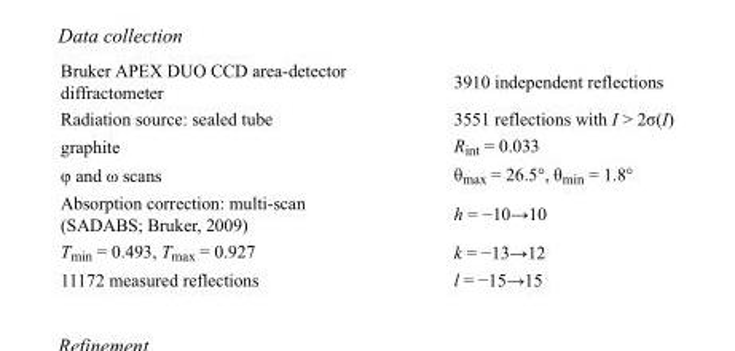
<table><tbody><tr><td>Bruker APEX DUO CCD area-detector diffractometer</td><td>3910 independent reflections</td></tr><tr><td>Radiation source: sealed tube</td><td>3551 reflections with I &gt; 2σ(I)</td></tr><tr><td>graphite</td><td>R<sub>int</sub> = 0.033</td></tr><tr><td>φ and ω scans</td><td>θ<sub>max</sub> = 26.5°, θ<sub>min</sub> = 1.8°</td></tr><tr><td>Absorption correction: multi-scan (SADABS; Bruker, 2009)</td><td>h = −10→10</td></tr><tr><td>T<sub>min</sub> = 0.493, T<sub>max</sub> = 0.927</td><td>k = −13→12</td></tr><tr><td>11172 measured reflections</td><td>l = −15→15</td></tr></tbody></table>